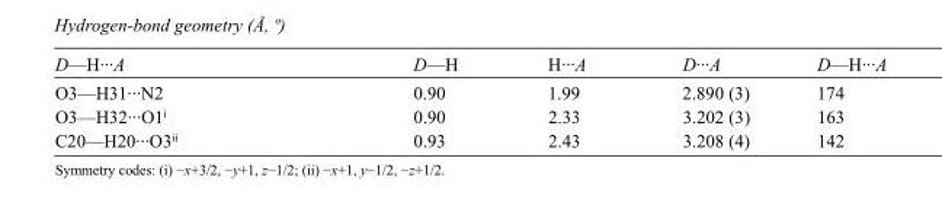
<table><tbody><tr><td>D—H···A</td><td>D—H</td><td>H···A</td><td>D···A</td><td>D—H···A</td></tr><tr><td>O3—H31···N2</td><td>0.90</td><td>1.99</td><td>2.890 (3)</td><td>174</td></tr><tr><td>O3—H32···O1<sup>i</sup></td><td>0.90</td><td>2.33</td><td>3.202 (3)</td><td>163</td></tr><tr><td>C20—H20···O3<sup>ii</sup></td><td>0.93</td><td>2.43</td><td>3.208 (4)</td><td>142</td></tr></tbody></table>